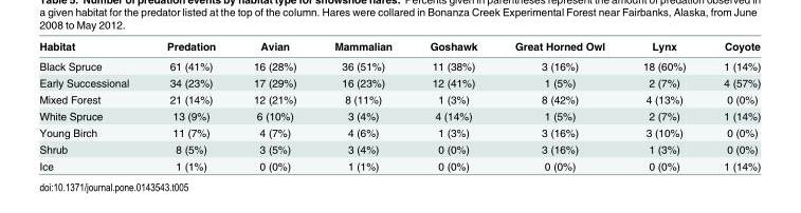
<table><thead><tr><td>Habitat</td><td>Predation</td><td>Avian</td><td>Mammalian</td><td>Goshawk</td><td>Great Horned Owl</td><td>Lynx</td><td>Coyote</td></tr></thead><tbody><tr><td>Black Spruce</td><td>61 (41%)</td><td>16 (28%)</td><td>36 (51%)</td><td>11 (38%)</td><td>3 (16%)</td><td>18 (60%)</td><td>1 (14%)</td></tr><tr><td>Early Successional</td><td>34 (23%)</td><td>17 (29%)</td><td>16 (23%)</td><td>12 (41%)</td><td>1 (5%)</td><td>2 (7%)</td><td>4 (57%)</td></tr><tr><td>Mixed Forest</td><td>21 (14%)</td><td>12 (21%)</td><td>8 (11%)</td><td>1 (3%)</td><td>8 (42%)</td><td>4 (13%)</td><td>0 (0%)</td></tr><tr><td>White Spruce</td><td>13 (9%)</td><td>6 (10%)</td><td>3 (4%)</td><td>4 (14%)</td><td>1 (5%)</td><td>2 (7%)</td><td>1 (14%)</td></tr><tr><td>Young Birch</td><td>11 (7%)</td><td>4 (7%)</td><td>4 (6%)</td><td>1 (3%)</td><td>3 (16%)</td><td>3 (10%)</td><td>0 (0%)</td></tr><tr><td>Shrub</td><td>8 (5%)</td><td>3 (5%)</td><td>3 (4%)</td><td>0 (0%)</td><td>3 (16%)</td><td>1 (3%)</td><td>0 (0%)</td></tr><tr><td>Ice</td><td>1 (1%)</td><td>0 (0%)</td><td>1 (1%)</td><td>0 (0%)</td><td>0 (0%)</td><td>0 (0%)</td><td>1 (14%)</td></tr></tbody></table>